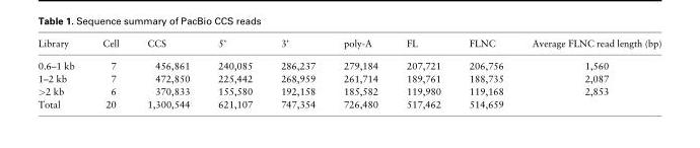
<table><thead><tr><td>Library</td><td>Cell</td><td>CCS</td><td>5’</td><td>3’</td><td>poly-A</td><td>FL</td><td>FLNC</td><td>Average FLNC read length (bp)</td></tr></thead><tbody><tr><td>0.6–1 kb</td><td>7</td><td>456,861</td><td>240,085</td><td>286,237</td><td>279,184</td><td>207,721</td><td>206,756</td><td>1,560</td></tr><tr><td>1–2 kb</td><td>7</td><td>472,850</td><td>225,442</td><td>268,959</td><td>261,714</td><td>189,761</td><td>188,735</td><td>2,087</td></tr><tr><td>&gt;2 kb</td><td>6</td><td>370,833</td><td>155,580</td><td>192,158</td><td>185,582</td><td>119,980</td><td>119,168</td><td>2,853</td></tr><tr><td>Total</td><td>20</td><td>1,300,544</td><td>621,107</td><td>747,354</td><td>726,480</td><td>517,462</td><td>514,659</td><td></td></tr></tbody></table>